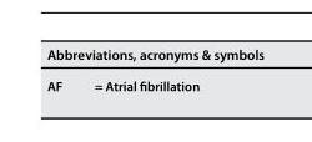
<table><thead><tr><td colspan="2">Abbreviations, acronyms &amp; symbols</td></tr><tr><td>AF</td><td>= Atrial fibrillation</td></tr></thead><tbody></tbody></table>